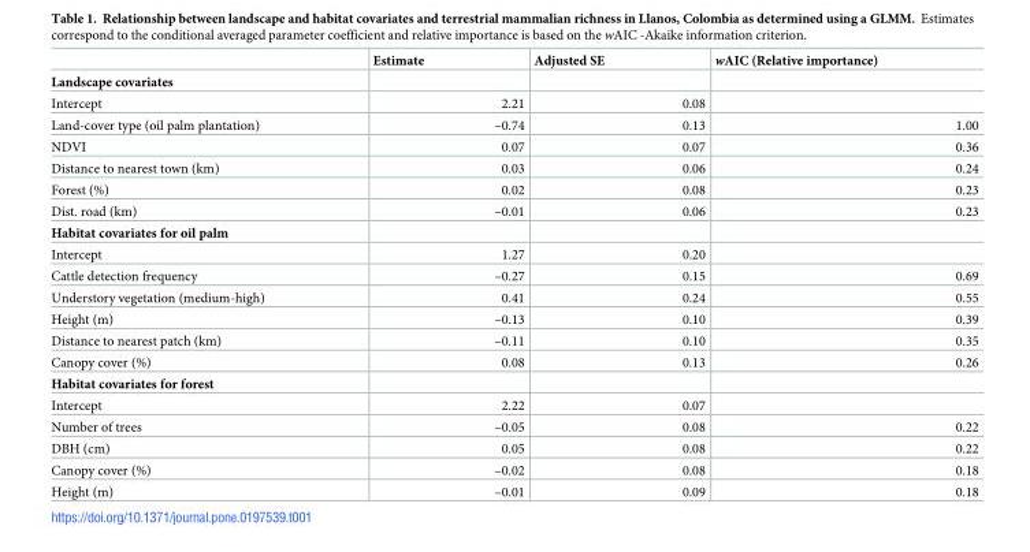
<table><thead><tr><td></td><td>Estimate</td><td>Adjusted SE</td><td>wAIC (Relative importance)</td></tr></thead><tbody><tr><td colspan="4">Landscape covariates</td></tr><tr><td>Intercept</td><td>2.21</td><td>0.08</td><td></td></tr><tr><td>Land-cover type (oil palm plantation)</td><td>–0.74</td><td>0.13</td><td>1.00</td></tr><tr><td>NDVI</td><td>0.07</td><td>0.07</td><td>0.36</td></tr><tr><td>Distance to nearest town (km)</td><td>0.03</td><td>0.06</td><td>0.24</td></tr><tr><td>Forest (%)</td><td>0.02</td><td>0.08</td><td>0.23</td></tr><tr><td>Dist. road (km)</td><td>–0.01</td><td>0.06</td><td>0.23</td></tr><tr><td colspan="4">Habitat covariates for oil palm</td></tr><tr><td>Intercept</td><td>1.27</td><td>0.20</td><td></td></tr><tr><td>Cattle detection frequency</td><td>–0.27</td><td>0.15</td><td>0.69</td></tr><tr><td>Understory vegetation (medium-high)</td><td>0.41</td><td>0.24</td><td>0.55</td></tr><tr><td>Height (m)</td><td>–0.13</td><td>0.10</td><td>0.39</td></tr><tr><td>Distance to nearest patch (km)</td><td>–0.11</td><td>0.10</td><td>0.35</td></tr><tr><td>Canopy cover (%)</td><td>0.08</td><td>0.13</td><td>0.26</td></tr><tr><td colspan="4">Habitat covariates for forest</td></tr><tr><td>Intercept</td><td>2.22</td><td>0.07</td><td></td></tr><tr><td>Number of trees</td><td>–0.05</td><td>0.08</td><td>0.22</td></tr><tr><td>DBH (cm)</td><td>0.05</td><td>0.08</td><td>0.22</td></tr><tr><td>Canopy cover (%)</td><td>–0.02</td><td>0.08</td><td>0.18</td></tr><tr><td>Height (m)</td><td>–0.01</td><td>0.09</td><td>0.18</td></tr></tbody></table>